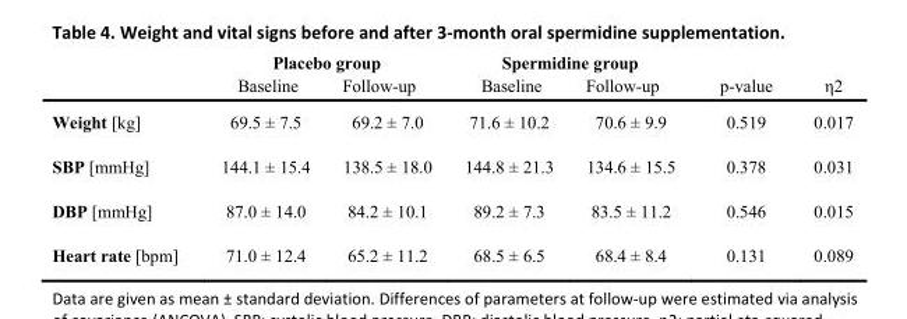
<table><thead><tr><td rowspan="2"></td><td colspan="2">Placebo group</td><td colspan="2">Spermidine group</td><td rowspan="2">p-value</td><td rowspan="2">η2</td></tr><tr><td>Baseline</td><td>Follow-up</td><td>Baseline</td><td>Follow-up</td></tr></thead><tbody><tr><td>Weight [kg]</td><td>69.5 ± 7.5</td><td>69.2 ± 7.0</td><td>71.6 ± 10.2</td><td>70.6 ± 9.9</td><td>0.519</td><td>0.017</td></tr><tr><td>SBP [mmHg]</td><td>144.1 ± 15.4</td><td>138.5 ± 18.0</td><td>144.8 ± 21.3</td><td>134.6 ± 15.5</td><td>0.378</td><td>0.031</td></tr><tr><td>DBP [mmHg]</td><td>87.0 ± 14.0</td><td>84.2 ± 10.1</td><td>89.2 ± 7.3</td><td>83.5 ± 11.2</td><td>0.546</td><td>0.015</td></tr><tr><td>Heart rate [bpm]</td><td>71.0 ± 12.4</td><td>65.2 ± 11.2</td><td>68.5 ± 6.5</td><td>68.4 ± 8.4</td><td>0.131</td><td>0.089</td></tr></tbody></table>